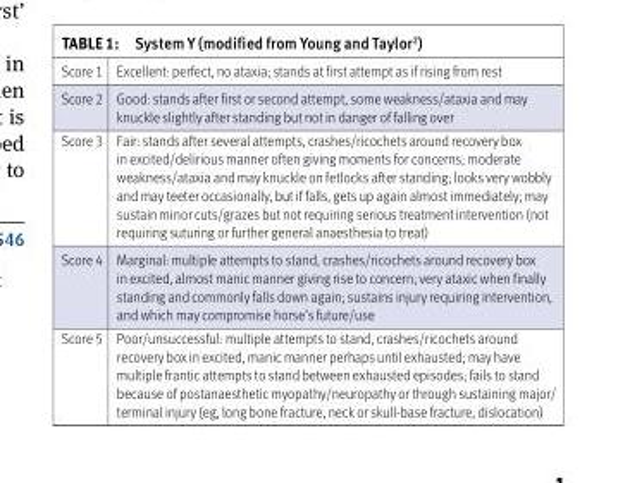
<table><tbody><tr><td>Score 1</td><td>Excellent: perfect, no ataxia; stands at first attempt as if rising from rest</td></tr><tr><td>Score 2</td><td>Good: stands after first or second attempt, some weakness/ataxia and may knuckle slightly after standing but not in danger of falling over</td></tr><tr><td>Score 3</td><td>Fair: stands after several attempts, crashes/ricochets around recovery box in excited/delirious manner often giving moments for concerns; moderate weakness/ataxia and may knuckle on fetlocks after standing; looks very wobbly and may teeter occasionally, but if falls, gets up again almost immediately; may sustain minor cuts/grazes but not requiring serious treatment intervention (not requiring suturing or further general anaesthesia to treat)</td></tr><tr><td>Score 4</td><td>Marginal: multiple attempts to stand, crashes/ricochets around recovery box in excited, almost manic manner giving rise to concern; very ataxic when finally standing and commonly falls down again; sustains injury requiring intervention, and which may compromise horse’s future/use</td></tr><tr><td>Score 5</td><td>Poor/unsuccessful: multiple attempts to stand, crashes/ricochets around recovery box in excited, manic manner perhaps until exhausted; may have multiple frantic attempts to stand between exhausted episodes; fails to stand because of postanaesthetic myopathy/neuropathy or through sustaining major/ terminal injury (eg, long bone fracture, neck or skull-base fracture, dislocation)</td></tr></tbody></table>